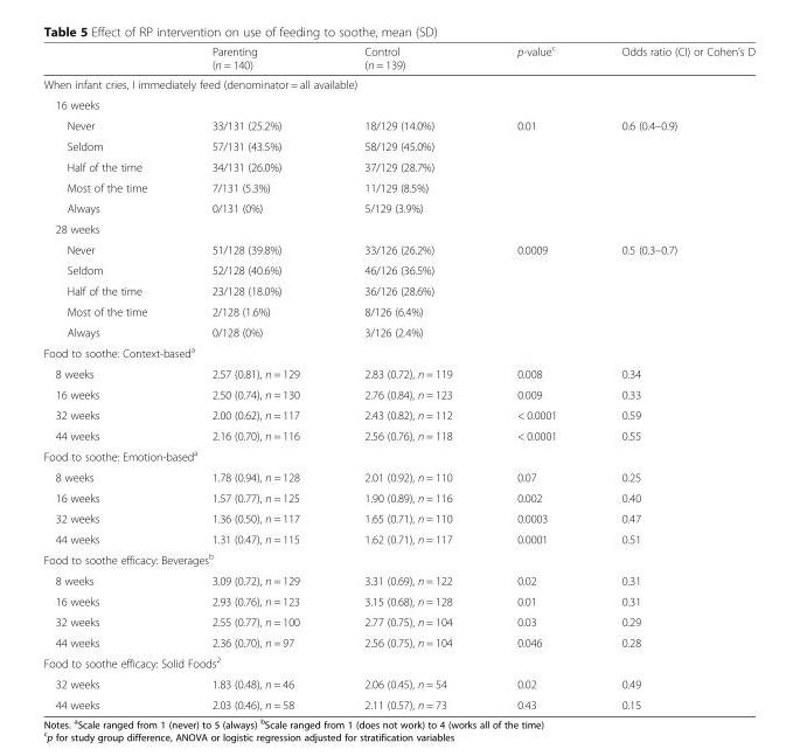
<table><thead><tr><td></td><td>Parenting (n = 140)</td><td>Control (n = 139)</td><td>p-value<sup>c</sup></td><td>Odds ratio (CI) or Cohen’s D</td></tr></thead><tbody><tr><td colspan="5">When infant cries, I immediately feed (denominator = all available)</td></tr><tr><td colspan="5">16 weeks</td></tr><tr><td>Never</td><td>33/131 (25.2%)</td><td>18/129 (14.0%)</td><td rowspan="5">0.01</td><td rowspan="5">0.6 (0.4–0.9)</td></tr><tr><td>Seldom</td><td>57/131 (43.5%)</td><td>58/129 (45.0%)</td></tr><tr><td>Half of the time</td><td>34/131 (26.0%)</td><td>37/129 (28.7%)</td></tr><tr><td>Most of the time</td><td>7/131 (5.3%)</td><td>11/129 (8.5%)</td></tr><tr><td>Always</td><td>0/131 (0%)</td><td>5/129 (3.9%)</td></tr><tr><td colspan="5">28 weeks</td></tr><tr><td>Never</td><td>51/128 (39.8%)</td><td>33/126 (26.2%)</td><td rowspan="5">0.0009</td><td rowspan="5">0.5 (0.3–0.7)</td></tr><tr><td>Seldom</td><td>52/128 (40.6%)</td><td>46/126 (36.5%)</td></tr><tr><td>Half of the time</td><td>23/128 (18.0%)</td><td>36/126 (28.6%)</td></tr><tr><td>Most of the time</td><td>2/128 (1.6%)</td><td>8/126 (6.4%)</td></tr><tr><td>Always</td><td>0/128 (0%)</td><td>3/126 (2.4%)</td></tr><tr><td colspan="5">Food to soothe: Context-based<sup>a</sup></td></tr><tr><td>8 weeks</td><td>2.57 (0.81), n = 129</td><td>2.83 (0.72), n = 119</td><td>0.008</td><td>0.34</td></tr><tr><td>16 weeks</td><td>2.50 (0.74), n = 130</td><td>2.76 (0.84), n = 123</td><td>0.009</td><td>0.33</td></tr><tr><td>32 weeks</td><td>2.00 (0.62), n = 117</td><td>2.43 (0.82), n = 112</td><td>&lt; 0.0001</td><td>0.59</td></tr><tr><td>44 weeks</td><td>2.16 (0.70), n = 116</td><td>2.56 (0.76), n = 118</td><td>&lt; 0.0001</td><td>0.55</td></tr><tr><td colspan="5">Food to soothe: Emotion-based<sup>a</sup></td></tr><tr><td>8 weeks</td><td>1.78 (0.94), n = 128</td><td>2.01 (0.92), n = 110</td><td>0.07</td><td>0.25</td></tr><tr><td>16 weeks</td><td>1.57 (0.77), n = 125</td><td>1.90 (0.89), n = 116</td><td>0.002</td><td>0.40</td></tr><tr><td>32 weeks</td><td>1.36 (0.50), n = 117</td><td>1.65 (0.71), n = 110</td><td>0.0003</td><td>0.47</td></tr><tr><td>44 weeks</td><td>1.31 (0.47), n = 115</td><td>1.62 (0.71), n = 117</td><td>0.0001</td><td>0.51</td></tr><tr><td colspan="5">Food to soothe efficacy: Beverages<sup>b</sup></td></tr><tr><td>8 weeks</td><td>3.09 (0.72), n = 129</td><td>3.31 (0.69), n = 122</td><td>0.02</td><td>0.31</td></tr><tr><td>16 weeks</td><td>2.93 (0.76), n = 123</td><td>3.15 (0.68), n = 128</td><td>0.01</td><td>0.31</td></tr><tr><td>32 weeks</td><td>2.55 (0.77), n = 100</td><td>2.77 (0.75), n = 104</td><td>0.03</td><td>0.29</td></tr><tr><td>44 weeks</td><td>2.36 (0.70), n = 97</td><td>2.56 (0.75), n = 104</td><td>0.046</td><td>0.28</td></tr><tr><td colspan="5">Food to soothe efficacy: Solid Foods<sup>2</sup></td></tr><tr><td>32 weeks</td><td>1.83 (0.48), n = 46</td><td>2.06 (0.45), n = 54</td><td>0.02</td><td>0.49</td></tr><tr><td>44 weeks</td><td>2.03 (0.46), n = 58</td><td>2.11 (0.57), n = 73</td><td>0.43</td><td>0.15</td></tr></tbody></table>